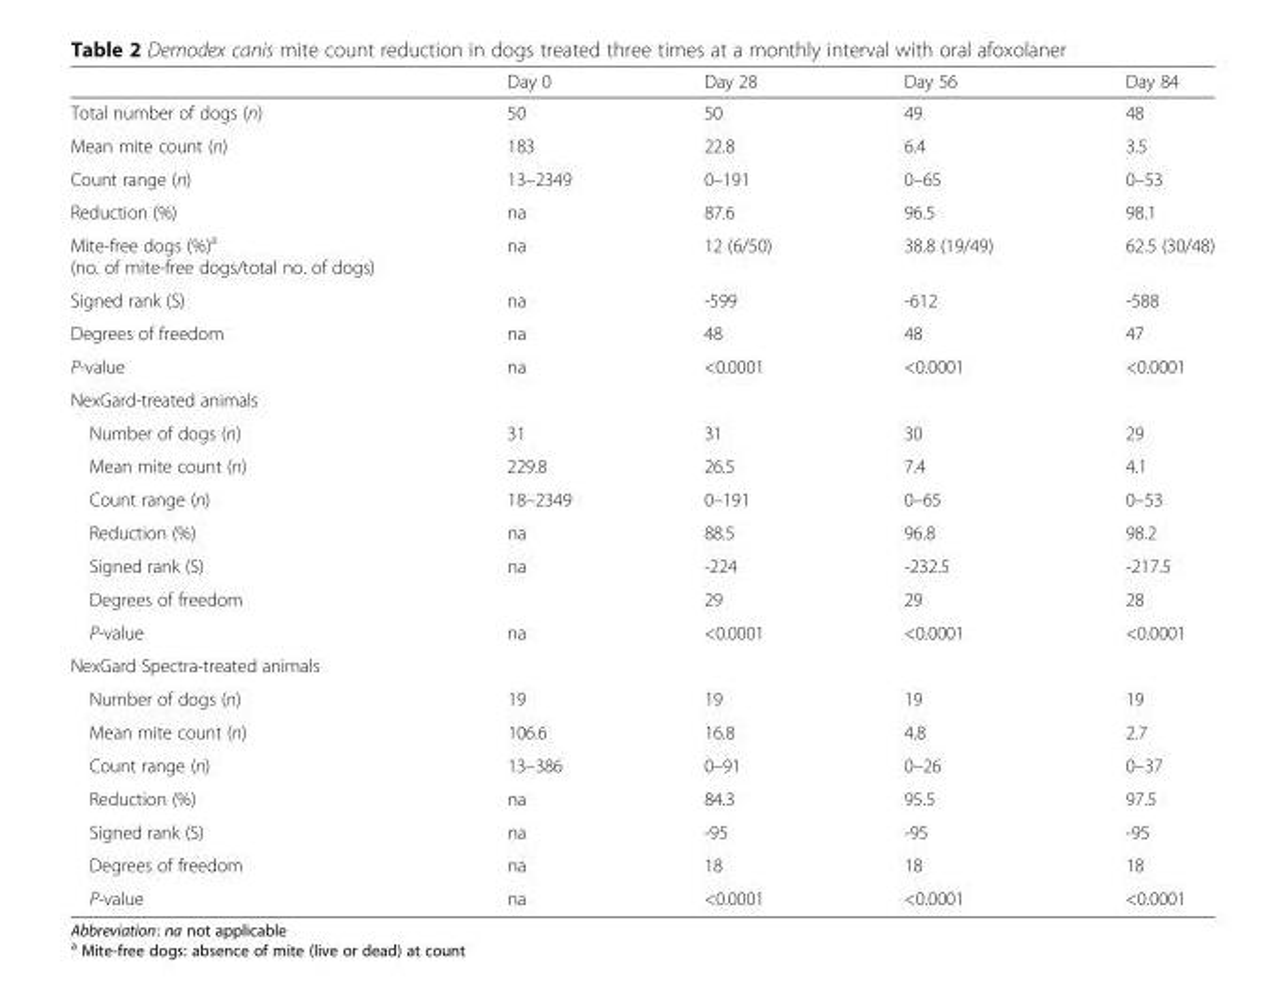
<table><thead><tr><td></td><td>Day 0</td><td>Day 28</td><td>Day 56</td><td>Day 84</td></tr></thead><tbody><tr><td>Total number of dogs (n)</td><td>50</td><td>50</td><td>49</td><td>48</td></tr><tr><td>Mean mite count (n)</td><td>183</td><td>22.8</td><td>6.4</td><td>3.5</td></tr><tr><td>Count range (n)</td><td>13–2349</td><td>0–191</td><td>0–65</td><td>0–53</td></tr><tr><td>Reduction (%)</td><td>na</td><td>87.6</td><td>96.5</td><td>98.1</td></tr><tr><td>Mite-free dogs (%)<sup>a</sup> (no. of mite-free dogs/total no. of dogs)</td><td>na</td><td>12 (6/50)</td><td>38.8 (19/49)</td><td>62.5 (30/48)</td></tr><tr><td>Signed rank (S)</td><td>na</td><td>-599</td><td>-612</td><td>-588</td></tr><tr><td>Degrees of freedom</td><td>na</td><td>48</td><td>48</td><td>47</td></tr><tr><td>P-value</td><td>na</td><td>&lt;0.0001</td><td>&lt;0.0001</td><td>&lt;0.0001</td></tr><tr><td colspan="5">NexGard-treated animals</td></tr><tr><td>Number of dogs (n)</td><td>31</td><td>31</td><td>30</td><td>29</td></tr><tr><td>Mean mite count (n)</td><td>229.8</td><td>26.5</td><td>7.4</td><td>4.1</td></tr><tr><td>Count range (n)</td><td>18–2349</td><td>0–191</td><td>0–65</td><td>0–53</td></tr><tr><td>Reduction (%)</td><td>na</td><td>88.5</td><td>96.8</td><td>98.2</td></tr><tr><td>Signed rank (S)</td><td>na</td><td>-224</td><td>-232.5</td><td>-217.5</td></tr><tr><td>Degrees of freedom</td><td></td><td>29</td><td>29</td><td>28</td></tr><tr><td>P-value</td><td>na</td><td>&lt;0.0001</td><td>&lt;0.0001</td><td>&lt;0.0001</td></tr><tr><td colspan="5">NexGard Spectra-treated animals</td></tr><tr><td>Number of dogs (n)</td><td>19</td><td>19</td><td>19</td><td>19</td></tr><tr><td>Mean mite count (n)</td><td>106.6</td><td>16.8</td><td>4.8</td><td>2.7</td></tr><tr><td>Count range (n)</td><td>13–386</td><td>0–91</td><td>0–26</td><td>0–37</td></tr><tr><td>Reduction (%)</td><td>na</td><td>84.3</td><td>95.5</td><td>97.5</td></tr><tr><td>Signed rank (S)</td><td>na</td><td>-95</td><td>-95</td><td>-95</td></tr><tr><td>Degrees of freedom</td><td>na</td><td>18</td><td>18</td><td>18</td></tr><tr><td>P-value</td><td>na</td><td>&lt;0.0001</td><td>&lt;0.0001</td><td>&lt;0.0001</td></tr></tbody></table>